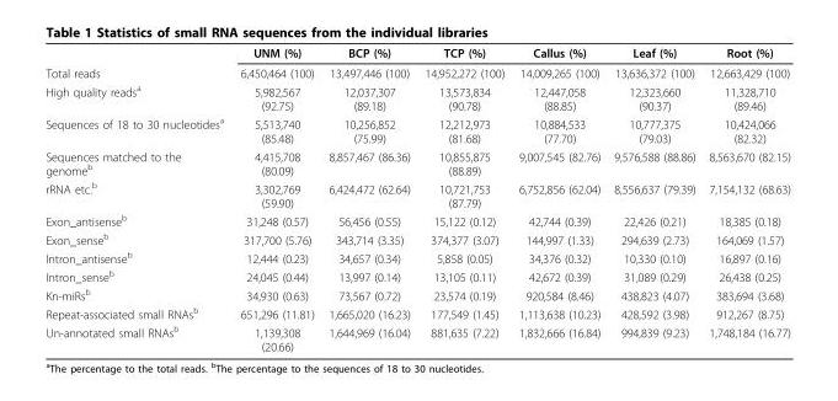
<table><thead><tr><td></td><td>UNM (%)</td><td>BCP (%)</td><td>TCP (%)</td><td>Callus (%)</td><td>Leaf (%)</td><td>Root (%)</td></tr></thead><tbody><tr><td>Total reads</td><td>6,450,464 (100)</td><td>13,497,446 (100)</td><td>14,952,272 (100)</td><td>14,009,265 (100)</td><td>13,636,372 (100)</td><td>12,663,429 (100)</td></tr><tr><td>High quality reads<sup>a</sup></td><td>5,982,567 (92.75)</td><td>12,037,307 (89.18)</td><td>13,573,834 (90.78)</td><td>12,447,058 (88.85)</td><td>12,323,660 (90.37)</td><td>11,328,710 (89.46)</td></tr><tr><td>Sequences of 18 to 30 nucleotides<sup>a</sup></td><td>5,513,740 (85.48)</td><td>10,256,852 (75.99)</td><td>12,212,973 (81.68)</td><td>10,884,533 (77.70)</td><td>10,777,375 (79.03)</td><td>10,424,066 (82.32)</td></tr><tr><td>Sequences matched to the genome<sup>b</sup></td><td>4,415,708 (80.09)</td><td>8,857,467 (86.36)</td><td>10,855,875 (88.89)</td><td>9,007,545 (82.76)</td><td>9,576,588 (88.86)</td><td>8,563,670 (82.15)</td></tr><tr><td>rRNA etc.<sup>b</sup></td><td>3,302,769 (59.90)</td><td>6,424,472 (62.64)</td><td>10,721,753 (87.79)</td><td>6,752,856 (62.04)</td><td>8,556,637 (79.39)</td><td>7,154,132 (68.63)</td></tr><tr><td>Exon_antisense<sup>b</sup></td><td>31,248 (0.57)</td><td>56,456 (0.55)</td><td>15,122 (0.12)</td><td>42,744 (0.39)</td><td>22,426 (0.21)</td><td>18,385 (0.18)</td></tr><tr><td>Exon_sense<sup>b</sup></td><td>317,700 (5.76)</td><td>343,714 (3.35)</td><td>374,377 (3.07)</td><td>144,997 (1.33)</td><td>294,639 (2.73)</td><td>164,069 (1.57)</td></tr><tr><td>Intron_antisense<sup>b</sup></td><td>12,444 (0.23)</td><td>34,657 (0.34)</td><td>5,858 (0.05)</td><td>34,376 (0.32)</td><td>10,330 (0.10)</td><td>16,897 (0.16)</td></tr><tr><td>Intron_sense<sup>b</sup></td><td>24,045 (0.44)</td><td>13,997 (0.14)</td><td>13,105 (0.11)</td><td>42,672 (0.39)</td><td>31,089 (0.29)</td><td>26,438 (0.25)</td></tr><tr><td>Kn-miRs<sup>b</sup></td><td>34,930 (0.63)</td><td>73,567 (0.72)</td><td>23,574 (0.19)</td><td>920,584 (8.46)</td><td>438,823 (4.07)</td><td>383,694 (3.68)</td></tr><tr><td>Repeat-associated small RNAs<sup>b</sup></td><td>651,296 (11.81)</td><td>1,665,020 (16.23)</td><td>177,549 (1.45)</td><td>1,113,638 (10.23)</td><td>428,592 (3.98)</td><td>912,267 (8.75)</td></tr><tr><td>Un-annotated small RNAs<sup>b</sup></td><td>1,139,308 (20.66)</td><td>1,644,969 (16.04)</td><td>881,635 (7.22)</td><td>1,832,666 (16.84)</td><td>994,839 (9.23)</td><td>1,748,184 (16.77)</td></tr></tbody></table>